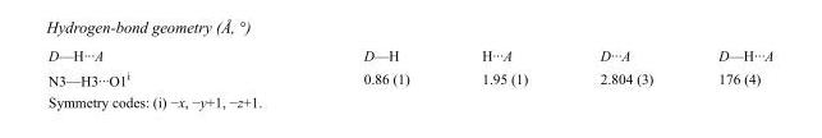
<table><tbody><tr><td>D—H···A</td><td>D—H</td><td>H···A</td><td>D···A</td><td>D—H···A</td></tr><tr><td>N3—H3···O1<sup>i</sup></td><td>0.86 (1)</td><td>1.95 (1)</td><td>2.804 (3)</td><td>176 (4)</td></tr></tbody></table>